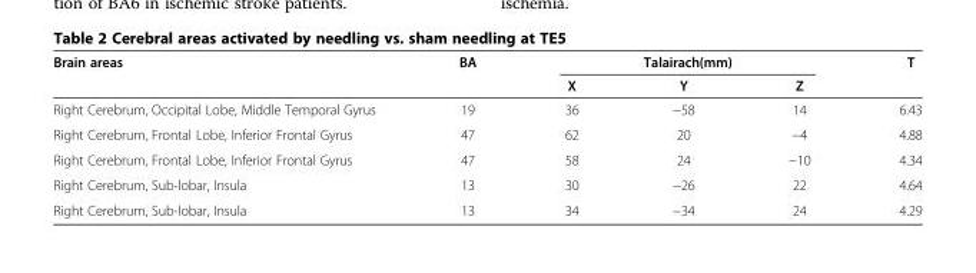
<table><thead><tr><td rowspan="2">Brain areas</td><td rowspan="2">BA</td><td colspan="3">Talairach(mm)</td><td rowspan="2">T</td></tr><tr><td>X</td><td>Y</td><td>Z</td></tr></thead><tbody><tr><td>Right Cerebrum, Occipital Lobe, Middle Temporal Gyrus</td><td>19</td><td>36</td><td>−58</td><td>14</td><td>6.43</td></tr><tr><td>Right Cerebrum, Frontal Lobe, Inferior Frontal Gyrus</td><td>47</td><td>62</td><td>20</td><td>−4</td><td>4.88</td></tr><tr><td>Right Cerebrum, Frontal Lobe, Inferior Frontal Gyrus</td><td>47</td><td>58</td><td>24</td><td>−10</td><td>4.34</td></tr><tr><td>Right Cerebrum, Sub-lobar, Insula</td><td>13</td><td>30</td><td>−26</td><td>22</td><td>4.64</td></tr><tr><td>Right Cerebrum, Sub-lobar, Insula</td><td>13</td><td>34</td><td>−34</td><td>24</td><td>4.29</td></tr></tbody></table>